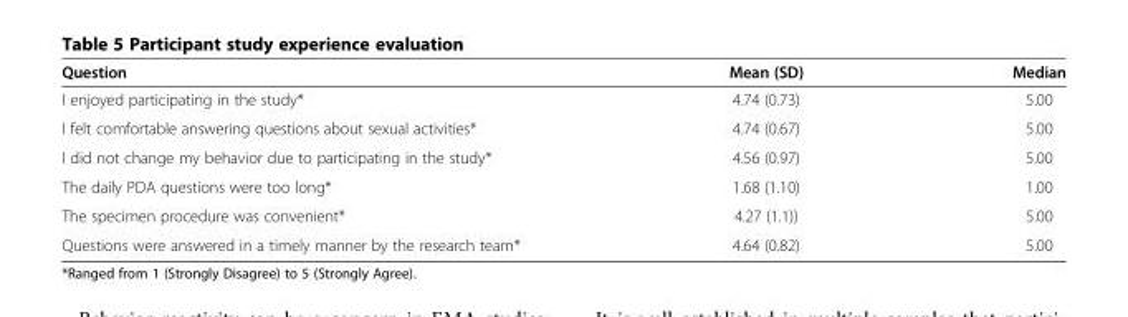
<table><thead><tr><td>Question</td><td>Mean (SD)</td><td>Median</td></tr></thead><tbody><tr><td>I enjoyed participating in the study*</td><td>4.74 (0.73)</td><td>5.00</td></tr><tr><td>I felt comfortable answering questions about sexual activities*</td><td>4.74 (0.67)</td><td>5.00</td></tr><tr><td>I did not change my behavior due to participating in the study*</td><td>4.56 (0.97)</td><td>5.00</td></tr><tr><td>The daily PDA questions were too long*</td><td>1.68 (1.10)</td><td>1.00</td></tr><tr><td>The specimen procedure was convenient*</td><td>4.27 (1.1))</td><td>5.00</td></tr><tr><td>Questions were answered in a timely manner by the research team*</td><td>4.64 (0.82)</td><td>5.00</td></tr></tbody></table>